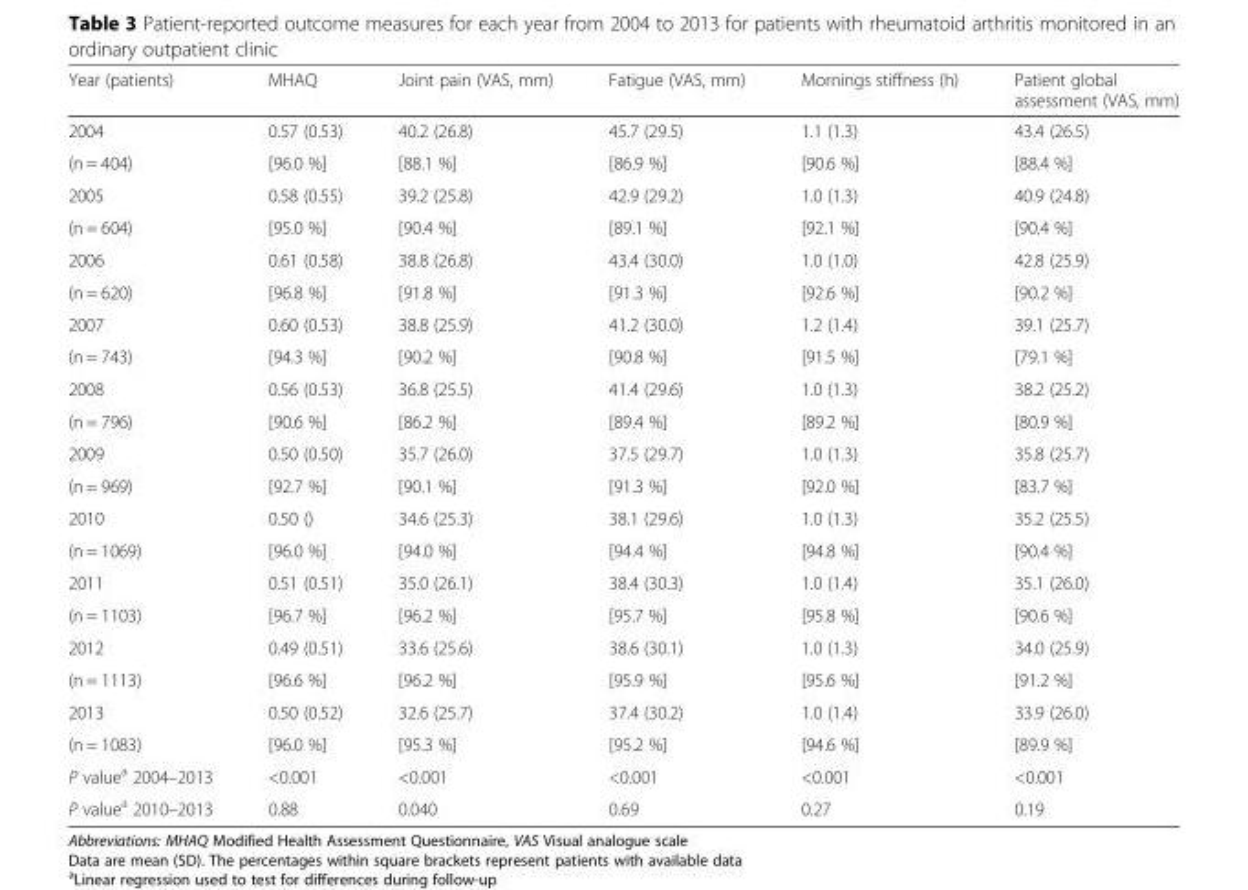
<table><thead><tr><td>Year (patients)</td><td>MHAQ</td><td>Joint pain (VAS, mm)</td><td>Fatigue (VAS, mm)</td><td>Mornings stiffness (h)</td><td>Patient global assessment (VAS, mm)</td></tr></thead><tbody><tr><td>2004</td><td>0.57 (0.53)</td><td>40.2 (26.8)</td><td>45.7 (29.5)</td><td>1.1 (1.3)</td><td>43.4 (26.5)</td></tr><tr><td>(n = 404)</td><td>[96.0 %]</td><td>[88.1 %]</td><td>[86.9 %]</td><td>[90.6 %]</td><td>[88.4 %]</td></tr><tr><td>2005</td><td>0.58 (0.55)</td><td>39.2 (25.8)</td><td>42.9 (29.2)</td><td>1.0 (1.3)</td><td>40.9 (24.8)</td></tr><tr><td>(n = 604)</td><td>[95.0 %]</td><td>[90.4 %]</td><td>[89.1 %]</td><td>[92.1 %]</td><td>[90.4 %]</td></tr><tr><td>2006</td><td>0.61 (0.58)</td><td>38.8 (26.8)</td><td>43.4 (30.0)</td><td>1.0 (1.0)</td><td>42.8 (25.9)</td></tr><tr><td>(n = 620)</td><td>[96.8 %]</td><td>[91.8 %]</td><td>[91.3 %]</td><td>[92.6 %]</td><td>[90.2 %]</td></tr><tr><td>2007</td><td>0.60 (0.53)</td><td>38.8 (25.9)</td><td>41.2 (30.0)</td><td>1.2 (1.4)</td><td>39.1 (25.7)</td></tr><tr><td>(n = 743)</td><td>[94.3 %]</td><td>[90.2 %]</td><td>[90.8 %]</td><td>[91.5 %]</td><td>[79.1 %]</td></tr><tr><td>2008</td><td>0.56 (0.53)</td><td>36.8 (25.5)</td><td>41.4 (29.6)</td><td>1.0 (1.3)</td><td>38.2 (25.2)</td></tr><tr><td>(n = 796)</td><td>[90.6 %]</td><td>[86.2 %]</td><td>[89.4 %]</td><td>[89.2 %]</td><td>[80.9 %]</td></tr><tr><td>2009</td><td>0.50 (0.50)</td><td>35.7 (26.0)</td><td>37.5 (29.7)</td><td>1.0 (1.3)</td><td>35.8 (25.7)</td></tr><tr><td>(n = 969)</td><td>[92.7 %]</td><td>[90.1 %]</td><td>[91.3 %]</td><td>[92.0 %]</td><td>[83.7 %]</td></tr><tr><td>2010</td><td>0.50 ()</td><td>34.6 (25.3)</td><td>38.1 (29.6)</td><td>1.0 (1.3)</td><td>35.2 (25.5)</td></tr><tr><td>(n = 1069)</td><td>[96.0 %]</td><td>[94.0 %]</td><td>[94.4 %]</td><td>[94.8 %]</td><td>[90.4 %]</td></tr><tr><td>2011</td><td>0.51 (0.51)</td><td>35.0 (26.1)</td><td>38.4 (30.3)</td><td>1.0 (1.4)</td><td>35.1 (26.0)</td></tr><tr><td>(n = 1103)</td><td>[96.7 %]</td><td>[96.2 %]</td><td>[95.7 %]</td><td>[95.8 %]</td><td>[90.6 %]</td></tr><tr><td>2012</td><td>0.49 (0.51)</td><td>33.6 (25.6)</td><td>38.6 (30.1)</td><td>1.0 (1.3)</td><td>34.0 (25.9)</td></tr><tr><td>(n = 1113)</td><td>[96.6 %]</td><td>[96.2 %]</td><td>[95.9 %]</td><td>[95.6 %]</td><td>[91.2 %]</td></tr><tr><td>2013</td><td>0.50 (0.52)</td><td>32.6 (25.7)</td><td>37.4 (30.2)</td><td>1.0 (1.4)</td><td>33.9 (26.0)</td></tr><tr><td>(n = 1083)</td><td>[96.0 %]</td><td>[95.3 %]</td><td>[95.2 %]</td><td>[94.6 %]</td><td>[89.9 %]</td></tr><tr><td>P value<sup>a</sup> 2004–2013</td><td>&lt;0.001</td><td>&lt;0.001</td><td>&lt;0.001</td><td>&lt;0.001</td><td>&lt;0.001</td></tr><tr><td>P value<sup>a</sup> 2010–2013</td><td>0.88</td><td>0.040</td><td>0.69</td><td>0.27</td><td>0.19</td></tr></tbody></table>